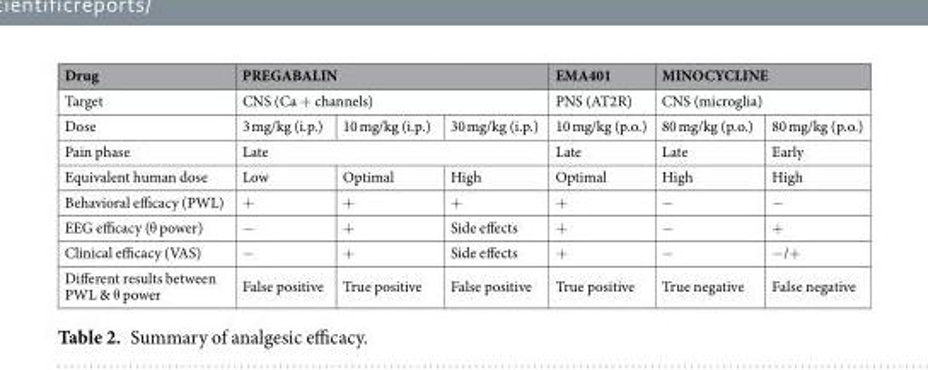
<table><thead><tr><td rowspan="3">Drug Target Dose</td><td rowspan="2" colspan="3">PREGABALIN CNS (Ca + channels)</td><td rowspan="3">EMA401 PNS (AT2R) 10 mg/kg (p.o.)</td><td rowspan="2" colspan="2">MINOCYCLINE CNS (microglia)</td></tr><tr></tr><tr><td>3 mg/kg (i.p.)</td><td>10 mg/kg (i.p.)</td><td>30 mg/kg (i.p.)</td><td>80 mg/kg (p.o.)</td><td>80 mg/kg (p.o.)</td></tr></thead><tbody><tr><td>Pain phase</td><td colspan="3">Late</td><td>Late</td><td>Late</td><td>Early</td></tr><tr><td>Equivalent human dose</td><td>Low</td><td>Optimal</td><td>High</td><td>Optimal</td><td>High</td><td>High</td></tr><tr><td>Behavioral efficacy (PWL)</td><td>+</td><td>+</td><td>+</td><td>+</td><td>−</td><td>−</td></tr><tr><td>EEG efficacy (θ power)</td><td>−</td><td>+</td><td>Side effects</td><td>+</td><td>−</td><td>+</td></tr><tr><td>Clinical efficacy (VAS)</td><td>−</td><td>+</td><td>Side effects</td><td>+</td><td>−</td><td>−/+</td></tr><tr><td>Different results between PWL &amp; θ power</td><td>False positive</td><td>True positive</td><td>False positive</td><td>True positive</td><td>True negative</td><td>False negative</td></tr></tbody></table>